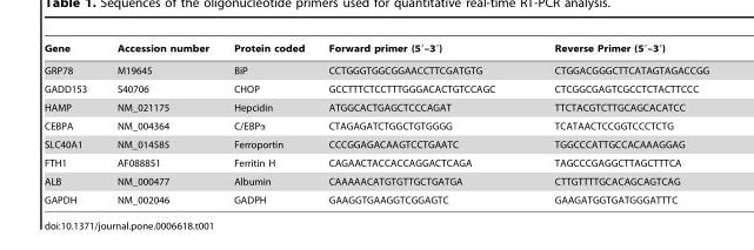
<table><thead><tr><td>Gene</td><td>Accession number</td><td>Protein coded</td><td>Forward primer (5′–3′)</td><td>Reverse Primer (5′–3′)</td></tr></thead><tbody><tr><td>GRP78</td><td>M19645</td><td>BiP</td><td>CCTGGGTGGCGGAACCTTCGATGTG</td><td>CTGGACGGGCTTCATAGTAGACCGG</td></tr><tr><td>GADD153</td><td>S40706</td><td>CHOP</td><td>GCCTTTCTCCTTTGGGACACTGTCCAGC</td><td>CTCGGCGAGTCGCCTCTACTTCCC</td></tr><tr><td>HAMP</td><td>NM_021175</td><td>Hepcidin</td><td>ATGGCACTGAGCTCCCAGAT</td><td>TTCTACGTCTTGCAGCACATCC</td></tr><tr><td>CEBPA</td><td>NM_004364</td><td>C/EBPα</td><td>CTAGAGATCTGGCTGTGGGG</td><td>TCATAACTCCGGTCCCTCTG</td></tr><tr><td>SLC40A1</td><td>NM_014585</td><td>Ferroportin</td><td>CCCGGAGACAAGTCCTGAATC</td><td>TGGCCCATTGCCACAAAGGAG</td></tr><tr><td>FTH1</td><td>AF088851</td><td>Ferritin H</td><td>CAGAACTACCACCAGGACTCAGA</td><td>TAGCCCGAGGCTTAGCTTTCA</td></tr><tr><td>ALB</td><td>NM_000477</td><td>Albumin</td><td>CAAAAACATGTGTTGCTGATGA</td><td>CTTGTTTTGCACAGCAGTCAG</td></tr><tr><td>GAPDH</td><td>NM_002046</td><td>GADPH</td><td>GAAGGTGAAGGTCGGAGTC</td><td>GAAGATGGTGATGGGATTTC</td></tr></tbody></table>